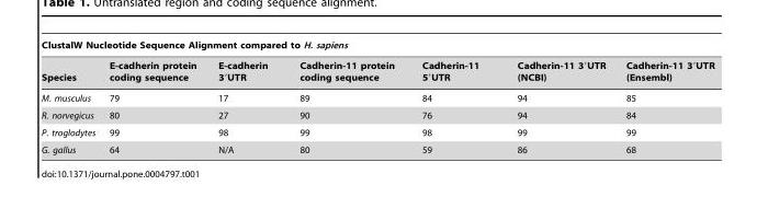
<table><thead><tr><td colspan="7">ClustalW Nucleotide Sequence Alignment compared to H. sapiens</td></tr><tr><td>Species</td><td>E-cadherin protein coding sequence</td><td>E-cadherin 3′UTR</td><td>Cadherin-11 protein coding sequence</td><td>Cadherin-11 5′UTR</td><td>Cadherin-11 3′UTR (NCBI)</td><td>Cadherin-11 3′UTR (Ensembl)</td></tr></thead><tbody><tr><td>M. musculus</td><td>79</td><td>17</td><td>89</td><td>84</td><td>94</td><td>85</td></tr><tr><td>R. norvegicus</td><td>80</td><td>27</td><td>90</td><td>76</td><td>94</td><td>84</td></tr><tr><td>P. troglodytes</td><td>99</td><td>98</td><td>99</td><td>98</td><td>99</td><td>99</td></tr><tr><td>G. gallus</td><td>64</td><td>N/A</td><td>80</td><td>59</td><td>86</td><td>68</td></tr></tbody></table>